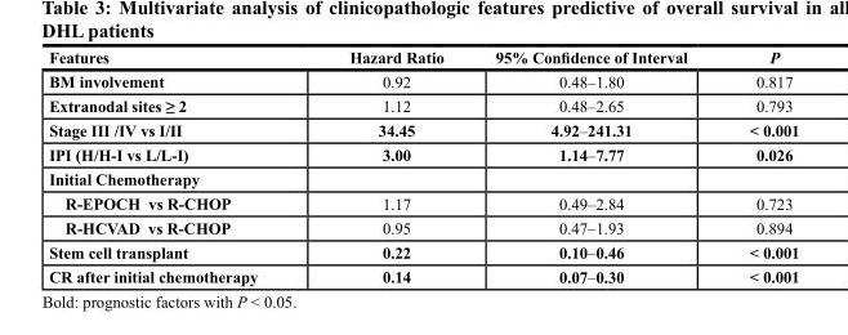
<table><thead><tr><td>Features</td><td>Hazard ratio</td><td>95% Confidence of Interval</td><td>P</td></tr></thead><tbody><tr><td>bM involvement</td><td>0.92</td><td>0.48–1.80</td><td>0.817</td></tr><tr><td>Extranodal sites ≥ 2</td><td>1.12</td><td>0.48–2.65</td><td>0.793</td></tr><tr><td>stage III /IV vs I/II</td><td>34.45</td><td>4.92–241.31</td><td>&lt; 0.001</td></tr><tr><td>IPI (H/H-I vs L/L-I)</td><td>3.00</td><td>1.14–7.77</td><td>0.026</td></tr><tr><td colspan="4">Initial chemotherapy</td></tr><tr><td>r-EPOcH vs r-cHOP</td><td>1.17</td><td>0.49–2.84</td><td>0.723</td></tr><tr><td>r-HcVAD vs r-cHOP</td><td>0.95</td><td>0.47–1.93</td><td>0.894</td></tr><tr><td>stem cell transplant</td><td>0.22</td><td>0.10–0.46</td><td>&lt; 0.001</td></tr><tr><td>cr after initial chemotherapy</td><td>0.14</td><td>0.07–0.30</td><td>&lt; 0.001</td></tr></tbody></table>